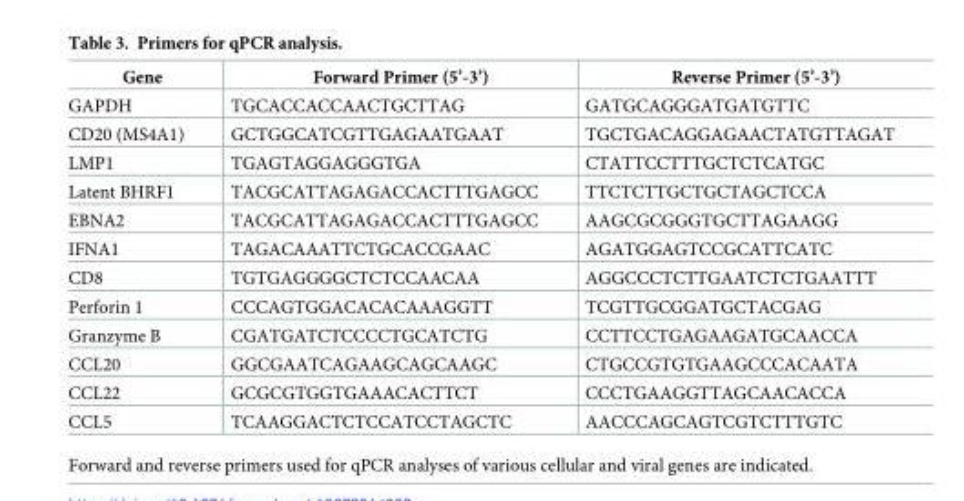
<table><thead><tr><td>Gene</td><td>Forward Primer (5’-3’)</td><td>Reverse Primer (5’-3’)</td></tr></thead><tbody><tr><td>GAPDH</td><td>TGCACCACCAACTGCTTAG</td><td>GATGCAGGGATGATGTTC</td></tr><tr><td>CD20 (MS4A1)</td><td>GCTGGCATCGTTGAGAATGAAT</td><td>TGCTGACAGGAGAACTATGTTAGAT</td></tr><tr><td>LMP1</td><td>TGAGTAGGAGGGTGA</td><td>CTATTCCTTTGCTCTCATGC</td></tr><tr><td>Latent BHRF1</td><td>TACGCATTAGAGACCACTTTGAGCC</td><td>TTCTCTTGCTGCTAGCTCCA</td></tr><tr><td>EBNA2</td><td>TACGCATTAGAGACCACTTTGAGCC</td><td>AAGCGCGGGTGCTTAGAAGG</td></tr><tr><td>IFNA1</td><td>TAGACAAATTCTGCACCGAAC</td><td>AGATGGAGTCCGCATTCATC</td></tr><tr><td>CD8</td><td>TGTGAGGGGCTCTCCAACAA</td><td>AGGCCCTCTTGAATCTCTGAATTT</td></tr><tr><td>Perforin 1</td><td>CCCAGTGGACACACAAAGGTT</td><td>TCGTTGCGGATGCTACGAG</td></tr><tr><td>Granzyme B</td><td>CGATGATCTCCCCTGCATCTG</td><td>CCTTCCTGAGAAGATGCAACCA</td></tr><tr><td>CCL20</td><td>GGCGAATCAGAAGCAGCAAGC</td><td>CTGCCGTGTGAAGCCCACAATA</td></tr><tr><td>CCL22</td><td>GCGCGTGGTGAAACACTTCT</td><td>CCCTGAAGGTTAGCAACACCA</td></tr><tr><td>CCL5</td><td>TCAAGGACTCTCCATCCTAGCTC</td><td>AACCCAGCAGTCGTCTTTGTC</td></tr></tbody></table>